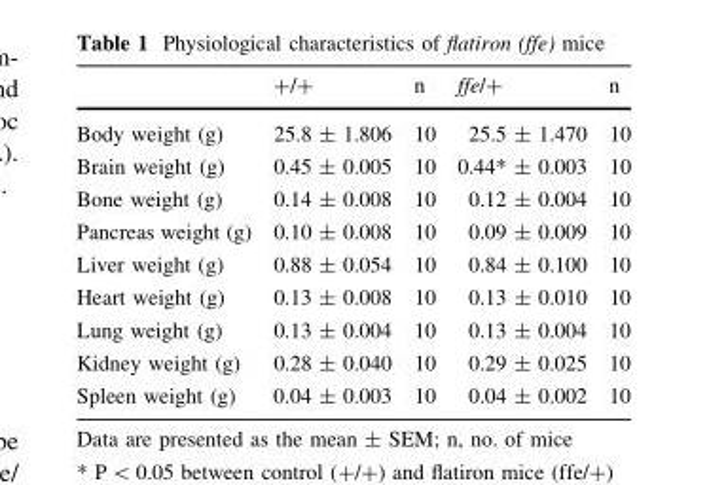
<table><thead><tr><td></td><td>+/+</td><td>n</td><td>ffe/+</td><td>n</td></tr></thead><tbody><tr><td>Body weight (g)</td><td>25.8 ± 1.806</td><td>10</td><td>25.5 ± 1.470</td><td>10</td></tr><tr><td>Brain weight (g)</td><td>0.45 ± 0.005</td><td>10</td><td>0.44* ± 0.003</td><td>10</td></tr><tr><td>Bone weight (g)</td><td>0.14 ± 0.008</td><td>10</td><td>0.12 ± 0.004</td><td>10</td></tr><tr><td>Pancreas weight (g)</td><td>0.10 ± 0.008</td><td>10</td><td>0.09 ± 0.009</td><td>10</td></tr><tr><td>Liver weight (g)</td><td>0.88 ± 0.054</td><td>10</td><td>0.84 ± 0.100</td><td>10</td></tr><tr><td>Heart weight (g)</td><td>0.13 ± 0.008</td><td>10</td><td>0.13 ± 0.010</td><td>10</td></tr><tr><td>Lung weight (g)</td><td>0.13 ± 0.004</td><td>10</td><td>0.13 ± 0.004</td><td>10</td></tr><tr><td>Kidney weight (g)</td><td>0.28 ± 0.040</td><td>10</td><td>0.29 ± 0.025</td><td>10</td></tr><tr><td>Spleen weight (g)</td><td>0.04 ± 0.003</td><td>10</td><td>0.04 ± 0.002</td><td>10</td></tr></tbody></table>